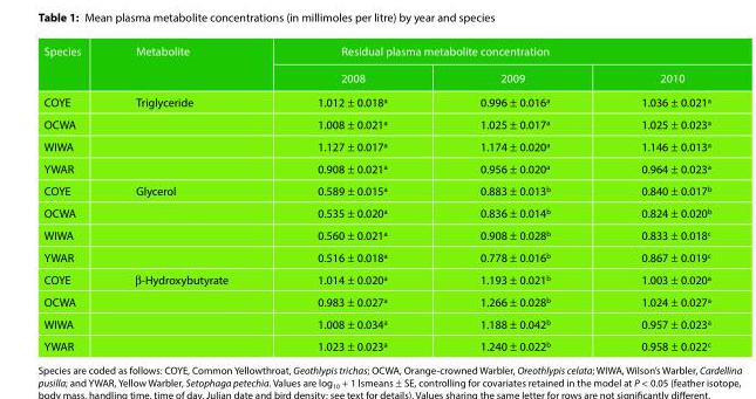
<table><thead><tr><td rowspan="2">Species</td><td rowspan="2">Metabolite</td><td colspan="3">Residual plasma metabolite concentration</td></tr><tr><td>2008</td><td>2009</td><td>2010</td></tr></thead><tbody><tr><td>COYE</td><td>Triglyceride</td><td>1.012 ± 0.018<sup>a</sup></td><td>0.996 ± 0.016<sup>a</sup></td><td>1.036 ± 0.021<sup>a</sup></td></tr><tr><td>OCWA</td><td></td><td>1.008 ± 0.021<sup>a</sup></td><td>1.025 ± 0.017<sup>a</sup></td><td>1.025 ± 0.023<sup>a</sup></td></tr><tr><td>WIWA</td><td></td><td>1.127 ± 0.017<sup>a</sup></td><td>1.174 ± 0.020<sup>a</sup></td><td>1.146 ± 0.013<sup>a</sup></td></tr><tr><td>YWAR</td><td></td><td>0.908 ± 0.021<sup>a</sup></td><td>0.956 ± 0.020<sup>a</sup></td><td>0.964 ± 0.023<sup>a</sup></td></tr><tr><td>COYE</td><td>Glycerol</td><td>0.589 ± 0.015<sup>a</sup></td><td>0.883 ± 0.013<sup>b</sup></td><td>0.840 ± 0.017<sup>b</sup></td></tr><tr><td>OCWA</td><td></td><td>0.535 ± 0.020<sup>a</sup></td><td>0.836 ± 0.014<sup>b</sup></td><td>0.824 ± 0.020<sup>b</sup></td></tr><tr><td>WIWA</td><td></td><td>0.560 ± 0.021<sup>a</sup></td><td>0.908 ± 0.028<sup>b</sup></td><td>0.833 ± 0.018<sup>c</sup></td></tr><tr><td>YWAR</td><td></td><td>0.516 ± 0.018<sup>a</sup></td><td>0.778 ± 0.016<sup>b</sup></td><td>0.867 ± 0.019<sup>c</sup></td></tr><tr><td>COYE</td><td>β-Hydroxybutyrate</td><td>1.014 ± 0.020<sup>a</sup></td><td>1.193 ± 0.021<sup>b</sup></td><td>1.003 ± 0.020<sup>a</sup></td></tr><tr><td>OCWA</td><td></td><td>0.983 ± 0.027<sup>a</sup></td><td>1.266 ± 0.028<sup>b</sup></td><td>1.024 ± 0.027<sup>a</sup></td></tr><tr><td>WIWA</td><td></td><td>1.008 ± 0.034<sup>a</sup></td><td>1.188 ± 0.042<sup>b</sup></td><td>0.957 ± 0.023<sup>a</sup></td></tr><tr><td>YWAR</td><td></td><td>1.023 ± 0.023<sup>a</sup></td><td>1.240 ± 0.022<sup>b</sup></td><td>0.958 ± 0.022<sup>c</sup></td></tr></tbody></table>